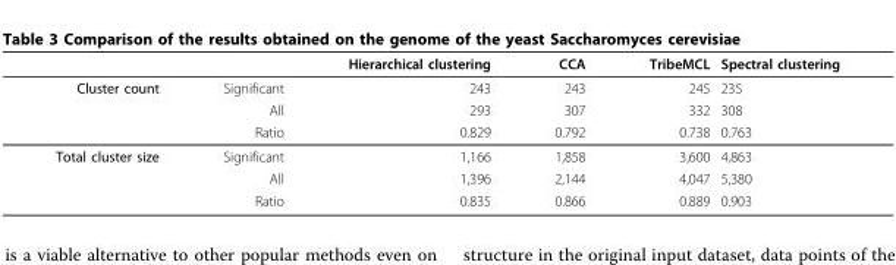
<table><thead><tr><td></td><td></td><td>Hierarchical clustering</td><td>CCA</td><td>TribeMCL</td><td>Spectral clustering</td></tr></thead><tbody><tr><td rowspan="3">Cluster count</td><td>Significant</td><td>243</td><td>243</td><td>245</td><td>235</td></tr><tr><td>All</td><td>293</td><td>307</td><td>332</td><td>308</td></tr><tr><td>Ratio</td><td>0.829</td><td>0.792</td><td>0.738</td><td>0.763</td></tr><tr><td rowspan="3">Total cluster size</td><td>Significant</td><td>1,166</td><td>1,858</td><td>3,600</td><td>4,863</td></tr><tr><td>All</td><td>1,396</td><td>2,144</td><td>4,047</td><td>5,380</td></tr><tr><td>Ratio</td><td>0.835</td><td>0.866</td><td>0.889</td><td>0.903</td></tr></tbody></table>